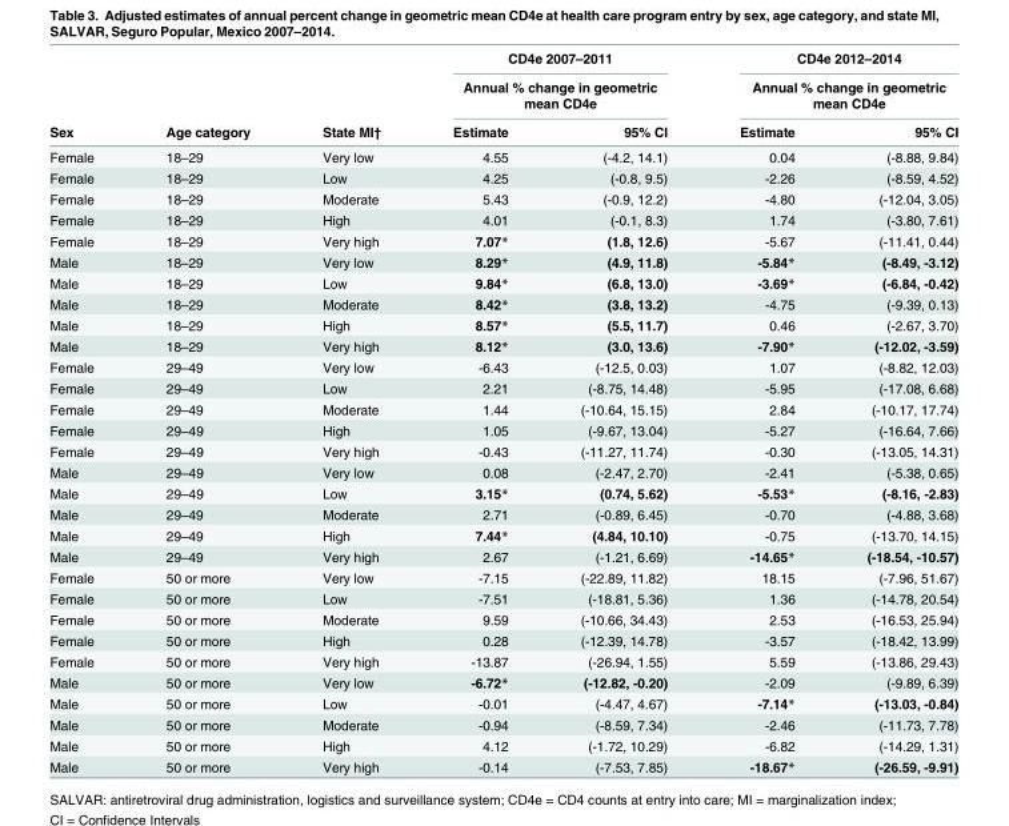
<table><thead><tr><td rowspan="3">Sex</td><td rowspan="3">Age category</td><td rowspan="3">State MI†</td><td rowspan="2" colspan="2">CD4e 2007–2011 Annual % change in geometric mean CD4e</td><td rowspan="2" colspan="2">CD4e 2012–2014 Annual % change in geometric mean CD4e</td></tr><tr></tr><tr><td>Estimate</td><td>95% CI</td><td>Estimate</td><td>95% CI</td></tr></thead><tbody><tr><td>Female</td><td>18–29</td><td>Very low</td><td>4.55</td><td>(-4.2, 14.1)</td><td>0.04</td><td>(-8.88, 9.84)</td></tr><tr><td>Female</td><td>18–29</td><td>Low</td><td>4.25</td><td>(-0.8, 9.5)</td><td>-2.26</td><td>(-8.59, 4.52)</td></tr><tr><td>Female</td><td>18–29</td><td>Moderate</td><td>5.43</td><td>(-0.9, 12.2)</td><td>-4.80</td><td>(-12.04, 3.05)</td></tr><tr><td>Female</td><td>18–29</td><td>High</td><td>4.01</td><td>(-0.1, 8.3)</td><td>1.74</td><td>(-3.80, 7.61)</td></tr><tr><td>Female</td><td>18–29</td><td>Very high</td><td>7.07*</td><td>(1.8, 12.6)</td><td>-5.67</td><td>(-11.41, 0.44)</td></tr><tr><td>Male</td><td>18–29</td><td>Very low</td><td>8.29*</td><td>(4.9, 11.8)</td><td>-5.84*</td><td>(-8.49, -3.12)</td></tr><tr><td>Male</td><td>18–29</td><td>Low</td><td>9.84*</td><td>(6.8, 13.0)</td><td>-3.69*</td><td>(-6.84, -0.42)</td></tr><tr><td>Male</td><td>18–29</td><td>Moderate</td><td>8.42*</td><td>(3.8, 13.2)</td><td>-4.75</td><td>(-9.39, 0.13)</td></tr><tr><td>Male</td><td>18–29</td><td>High</td><td>8.57*</td><td>(5.5, 11.7)</td><td>0.46</td><td>(-2.67, 3.70)</td></tr><tr><td>Male</td><td>18–29</td><td>Very high</td><td>8.12*</td><td>(3.0, 13.6)</td><td>-7.90*</td><td>(-12.02, -3.59)</td></tr><tr><td>Female</td><td>29–49</td><td>Very low</td><td>-6.43</td><td>(-12.5, 0.03)</td><td>1.07</td><td>(-8.82, 12.03)</td></tr><tr><td>Female</td><td>29–49</td><td>Low</td><td>2.21</td><td>(-8.75, 14.48)</td><td>-5.95</td><td>(-17.08, 6.68)</td></tr><tr><td>Female</td><td>29–49</td><td>Moderate</td><td>1.44</td><td>(-10.64, 15.15)</td><td>2.84</td><td>(-10.17, 17.74)</td></tr><tr><td>Female</td><td>29–49</td><td>High</td><td>1.05</td><td>(-9.67, 13.04)</td><td>-5.27</td><td>(-16.64, 7.66)</td></tr><tr><td>Female</td><td>29–49</td><td>Very high</td><td>-0.43</td><td>(-11.27, 11.74)</td><td>-0.30</td><td>(-13.05, 14.31)</td></tr><tr><td>Male</td><td>29–49</td><td>Very low</td><td>0.08</td><td>(-2.47, 2.70)</td><td>-2.41</td><td>(-5.38, 0.65)</td></tr><tr><td>Male</td><td>29–49</td><td>Low</td><td>3.15*</td><td>(0.74, 5.62)</td><td>-5.53*</td><td>(-8.16, -2.83)</td></tr><tr><td>Male</td><td>29–49</td><td>Moderate</td><td>2.71</td><td>(-0.89, 6.45)</td><td>-0.70</td><td>(-4.88, 3.68)</td></tr><tr><td>Male</td><td>29–49</td><td>High</td><td>7.44*</td><td>(4.84, 10.10)</td><td>-0.75</td><td>(-13.70, 14.15)</td></tr><tr><td>Male</td><td>29–49</td><td>Very high</td><td>2.67</td><td>(-1.21, 6.69)</td><td>-14.65*</td><td>(-18.54, -10.57)</td></tr><tr><td>Female</td><td>50 or more</td><td>Very low</td><td>-7.15</td><td>(-22.89, 11.82)</td><td>18.15</td><td>(-7.96, 51.67)</td></tr><tr><td>Female</td><td>50 or more</td><td>Low</td><td>-7.51</td><td>(-18.81, 5.36)</td><td>1.36</td><td>(-14.78, 20.54)</td></tr><tr><td>Female</td><td>50 or more</td><td>Moderate</td><td>9.59</td><td>(-10.66, 34.43)</td><td>2.53</td><td>(-16.53, 25.94)</td></tr><tr><td>Female</td><td>50 or more</td><td>High</td><td>0.28</td><td>(-12.39, 14.78)</td><td>-3.57</td><td>(-18.42, 13.99)</td></tr><tr><td>Female</td><td>50 or more</td><td>Very high</td><td>-13.87</td><td>(-26.94, 1.55)</td><td>5.59</td><td>(-13.86, 29.43)</td></tr><tr><td>Male</td><td>50 or more</td><td>Very low</td><td>-6.72*</td><td>(-12.82, -0.20)</td><td>-2.09</td><td>(-9.89, 6.39)</td></tr><tr><td>Male</td><td>50 or more</td><td>Low</td><td>-0.01</td><td>(-4.47, 4.67)</td><td>-7.14*</td><td>(-13.03, -0.84)</td></tr><tr><td>Male</td><td>50 or more</td><td>Moderate</td><td>-0.94</td><td>(-8.59, 7.34)</td><td>-2.46</td><td>(-11.73, 7.78)</td></tr><tr><td>Male</td><td>50 or more</td><td>High</td><td>4.12</td><td>(-1.72, 10.29)</td><td>-6.82</td><td>(-14.29, 1.31)</td></tr><tr><td>Male</td><td>50 or more</td><td>Very high</td><td>-0.14</td><td>(-7.53, 7.85)</td><td>-18.67*</td><td>(-26.59, -9.91)</td></tr></tbody></table>